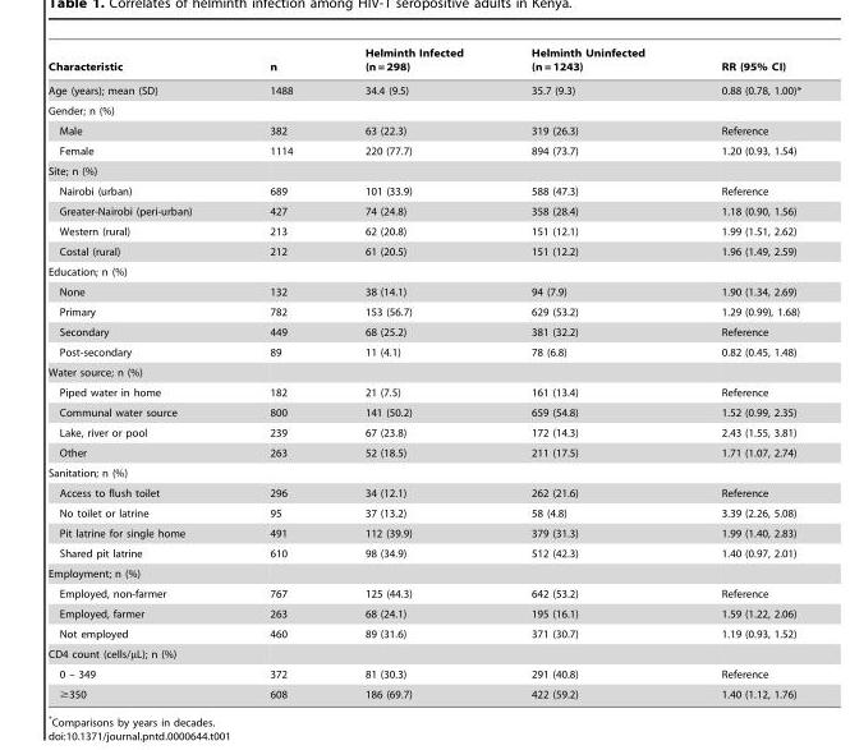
<table><thead><tr><td>Characteristic</td><td>n</td><td>Helminth Infected (n = 298)</td><td>Helminth Uninfected (n = 1243)</td><td>RR (95% CI)</td></tr></thead><tbody><tr><td>Age (years); mean (SD)</td><td>1488</td><td>34.4 (9.5)</td><td>35.7 (9.3)</td><td>0.88 (0.78, 1.00)*</td></tr><tr><td colspan="5">Gender; n (%)</td></tr><tr><td>Male</td><td>382</td><td>63 (22.3)</td><td>319 (26.3)</td><td>Reference</td></tr><tr><td>Female</td><td>1114</td><td>220 (77.7)</td><td>894 (73.7)</td><td>1.20 (0.93, 1.54)</td></tr><tr><td colspan="5">Site; n (%)</td></tr><tr><td>Nairobi (urban)</td><td>689</td><td>101 (33.9)</td><td>588 (47.3)</td><td>Reference</td></tr><tr><td>Greater-Nairobi (peri-urban)</td><td>427</td><td>74 (24.8)</td><td>358 (28.4)</td><td>1.18 (0.90, 1.56)</td></tr><tr><td>Western (rural)</td><td>213</td><td>62 (20.8)</td><td>151 (12.1)</td><td>1.99 (1.51, 2.62)</td></tr><tr><td>Costal (rural)</td><td>212</td><td>61 (20.5)</td><td>151 (12.2)</td><td>1.96 (1.49, 2.59)</td></tr><tr><td colspan="5">Education; n (%)</td></tr><tr><td>None</td><td>132</td><td>38 (14.1)</td><td>94 (7.9)</td><td>1.90 (1.34, 2.69)</td></tr><tr><td>Primary</td><td>782</td><td>153 (56.7)</td><td>629 (53.2)</td><td>1.29 (0.99), 1.68)</td></tr><tr><td>Secondary</td><td>449</td><td>68 (25.2)</td><td>381 (32.2)</td><td>Reference</td></tr><tr><td>Post-secondary</td><td>89</td><td>11 (4.1)</td><td>78 (6.8)</td><td>0.82 (0.45, 1.48)</td></tr><tr><td colspan="5">Water source; n (%)</td></tr><tr><td>Piped water in home</td><td>182</td><td>21 (7.5)</td><td>161 (13.4)</td><td>Reference</td></tr><tr><td>Communal water source</td><td>800</td><td>141 (50.2)</td><td>659 (54.8)</td><td>1.52 (0.99, 2.35)</td></tr><tr><td>Lake, river or pool</td><td>239</td><td>67 (23.8)</td><td>172 (14.3)</td><td>2.43 (1.55, 3.81)</td></tr><tr><td>Other</td><td>263</td><td>52 (18.5)</td><td>211 (17.5)</td><td>1.71 (1.07, 2.74)</td></tr><tr><td colspan="5">Sanitation; n (%)</td></tr><tr><td>Access to flush toilet</td><td>296</td><td>34 (12.1)</td><td>262 (21.6)</td><td>Reference</td></tr><tr><td>No toilet or latrine</td><td>95</td><td>37 (13.2)</td><td>58 (4.8)</td><td>3.39 (2.26, 5.08)</td></tr><tr><td>Pit latrine for single home</td><td>491</td><td>112 (39.9)</td><td>379 (31.3)</td><td>1.99 (1.40, 2.83)</td></tr><tr><td>Shared pit latrine</td><td>610</td><td>98 (34.9)</td><td>512 (42.3)</td><td>1.40 (0.97, 2.01)</td></tr><tr><td colspan="5">Employment; n (%)</td></tr><tr><td>Employed, non-farmer</td><td>767</td><td>125 (44.3)</td><td>642 (53.2)</td><td>Reference</td></tr><tr><td>Employed, farmer</td><td>263</td><td>68 (24.1)</td><td>195 (16.1)</td><td>1.59 (1.22, 2.06)</td></tr><tr><td>Not employed</td><td>460</td><td>89 (31.6)</td><td>371 (30.7)</td><td>1.19 (0.93, 1.52)</td></tr><tr><td colspan="5">CD4 count (cells/µL); n (%)</td></tr><tr><td>0 – 349</td><td>372</td><td>81 (30.3)</td><td>291 (40.8)</td><td>Reference</td></tr><tr><td>≥350</td><td>608</td><td>186 (69.7)</td><td>422 (59.2)</td><td>1.40 (1.12, 1.76)</td></tr></tbody></table>